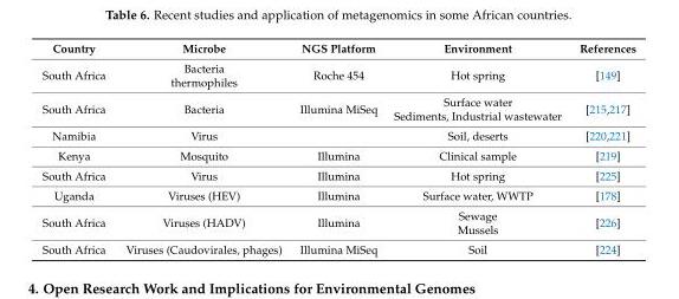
<table><thead><tr><td>Country</td><td>Microbe</td><td>NGS Platform</td><td>Environment</td><td>References</td></tr></thead><tbody><tr><td>South Africa</td><td>Bacteria thermophiles</td><td>Roche 454</td><td>Hot spring</td><td>[149]</td></tr><tr><td>South Africa</td><td>Bacteria</td><td>Illumina MiSeq</td><td>Surface water Sediments, Industrial wastewater</td><td>[215,217]</td></tr><tr><td>Namibia</td><td>Virus</td><td></td><td>Soil, deserts</td><td>[220,221]</td></tr><tr><td>Kenya</td><td>Mosquito</td><td>Illumina</td><td>Clinical sample</td><td>[219]</td></tr><tr><td>South Africa</td><td>Virus</td><td>Illumina</td><td>Hot spring</td><td>[225]</td></tr><tr><td>Uganda</td><td>Viruses (HEV)</td><td>Illumina</td><td>Surface water, WWTP</td><td>[178]</td></tr><tr><td>South Africa</td><td>Viruses (HADV)</td><td>Illumina</td><td>Sewage Mussels</td><td>[226]</td></tr><tr><td>South Africa</td><td>Viruses (Caudovirales, phages)</td><td>Illumina MiSeq</td><td>Soil</td><td>[224]</td></tr></tbody></table>